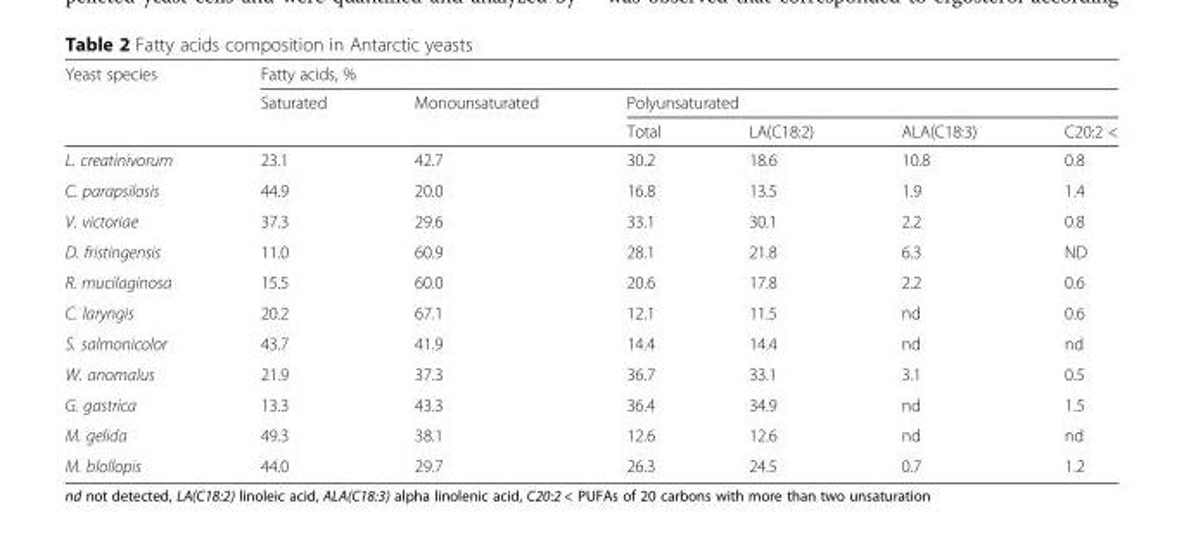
<table><thead><tr><td rowspan="3">Yeast species</td><td colspan="6">Fatty acids, %</td></tr><tr><td rowspan="2">Saturated</td><td rowspan="2">Monounsaturated</td><td colspan="4">Polyunsaturated</td></tr><tr><td>Total</td><td>LA(C18:2)</td><td>ALA(C18:3)</td><td>C20:2 &lt;</td></tr></thead><tbody><tr><td>L. creatinivorum</td><td>23.1</td><td>42.7</td><td>30.2</td><td>18.6</td><td>10.8</td><td>0.8</td></tr><tr><td>C. parapsilosis</td><td>44.9</td><td>20.0</td><td>16.8</td><td>13.5</td><td>1.9</td><td>1.4</td></tr><tr><td>V. victoriae</td><td>37.3</td><td>29.6</td><td>33.1</td><td>30.1</td><td>2.2</td><td>0.8</td></tr><tr><td>D. fristingensis</td><td>11.0</td><td>60.9</td><td>28.1</td><td>21.8</td><td>6.3</td><td>ND</td></tr><tr><td>R. mucilaginosa</td><td>15.5</td><td>60.0</td><td>20.6</td><td>17.8</td><td>2.2</td><td>0.6</td></tr><tr><td>C. laryngis</td><td>20.2</td><td>67.1</td><td>12.1</td><td>11.5</td><td>nd</td><td>0.6</td></tr><tr><td>S. salmonicolor</td><td>43.7</td><td>41.9</td><td>14.4</td><td>14.4</td><td>nd</td><td>nd</td></tr><tr><td>W. anomalus</td><td>21.9</td><td>37.3</td><td>36.7</td><td>33.1</td><td>3.1</td><td>0.5</td></tr><tr><td>G. gastrica</td><td>13.3</td><td>43.3</td><td>36.4</td><td>34.9</td><td>nd</td><td>1.5</td></tr><tr><td>M. gelida</td><td>49.3</td><td>38.1</td><td>12.6</td><td>12.6</td><td>nd</td><td>nd</td></tr><tr><td>M. blollopis</td><td>44.0</td><td>29.7</td><td>26.3</td><td>24.5</td><td>0.7</td><td>1.2</td></tr></tbody></table>